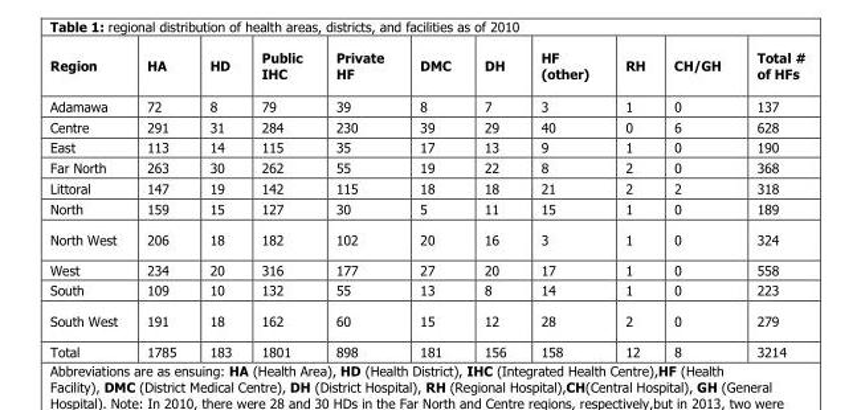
<table><thead><tr><td>Region</td><td>HA</td><td>HD</td><td>Public IHC</td><td>Private HF</td><td>DMC</td><td>DH</td><td>HF (other)</td><td>RH</td><td>CH/GH</td><td>Total # of HFs</td></tr></thead><tbody><tr><td>Adamawa</td><td>72</td><td>8</td><td>79</td><td>39</td><td>8</td><td>7</td><td>3</td><td>1</td><td>0</td><td>137</td></tr><tr><td>Centre</td><td>291</td><td>31</td><td>284</td><td>230</td><td>39</td><td>29</td><td>40</td><td>0</td><td>6</td><td>628</td></tr><tr><td>East</td><td>113</td><td>14</td><td>115</td><td>35</td><td>17</td><td>13</td><td>9</td><td>1</td><td>0</td><td>190</td></tr><tr><td>Far North</td><td>263</td><td>30</td><td>262</td><td>55</td><td>19</td><td>22</td><td>8</td><td>2</td><td>0</td><td>368</td></tr><tr><td>Littoral</td><td>147</td><td>19</td><td>142</td><td>115</td><td>18</td><td>18</td><td>21</td><td>2</td><td>2</td><td>318</td></tr><tr><td>North</td><td>159</td><td>15</td><td>127</td><td>30</td><td>5</td><td>11</td><td>15</td><td>1</td><td>0</td><td>189</td></tr><tr><td>North West</td><td>206</td><td>18</td><td>182</td><td>102</td><td>20</td><td>16</td><td>3</td><td>1</td><td>0</td><td>324</td></tr><tr><td>West</td><td>234</td><td>20</td><td>316</td><td>177</td><td>27</td><td>20</td><td>17</td><td>1</td><td>0</td><td>558</td></tr><tr><td>South</td><td>109</td><td>10</td><td>132</td><td>55</td><td>13</td><td>8</td><td>14</td><td>1</td><td>0</td><td>223</td></tr><tr><td>South West</td><td>191</td><td>18</td><td>162</td><td>60</td><td>15</td><td>12</td><td>28</td><td>2</td><td>0</td><td>279</td></tr><tr><td>Total</td><td>1785</td><td>183</td><td>1801</td><td>898</td><td>181</td><td>156</td><td>158</td><td>12</td><td>8</td><td>3214</td></tr></tbody></table>